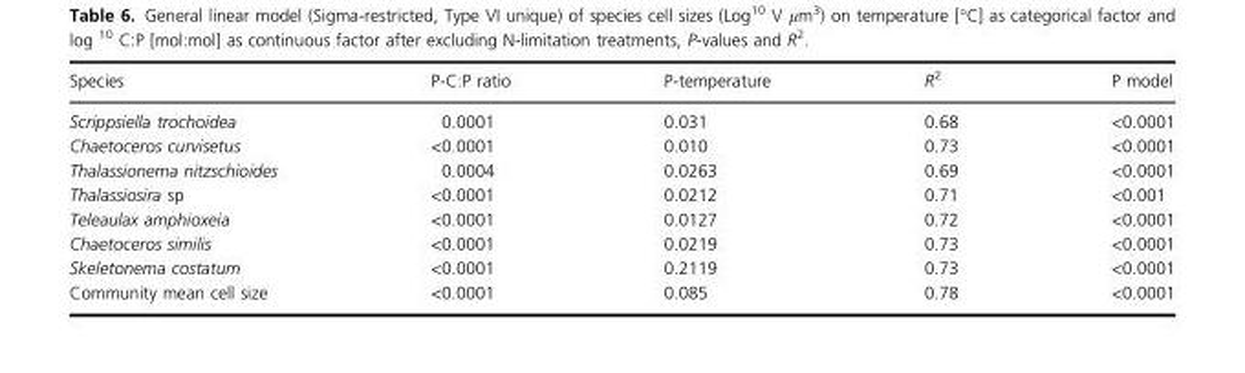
<table><thead><tr><td>Species</td><td>P-C:P ratio</td><td>P-temperature</td><td>R<sup>2</sup></td><td>P model</td></tr></thead><tbody><tr><td>Scrippsiella trochoidea</td><td>0.0001</td><td>0.031</td><td>0.68</td><td>&lt;0.0001</td></tr><tr><td>Chaetoceros curvisetus</td><td>&lt;0.0001</td><td>0.010</td><td>0.73</td><td>&lt;0.0001</td></tr><tr><td>Thalassionema nitzschioides</td><td>0.0004</td><td>0.0263</td><td>0.69</td><td>&lt;0.0001</td></tr><tr><td>Thalassiosira sp</td><td>&lt;0.0001</td><td>0.0212</td><td>0.71</td><td>&lt;0.001</td></tr><tr><td>Teleaulax amphioxeia</td><td>&lt;0.0001</td><td>0.0127</td><td>0.72</td><td>&lt;0.0001</td></tr><tr><td>Chaetoceros similis</td><td>&lt;0.0001</td><td>0.0219</td><td>0.73</td><td>&lt;0.0001</td></tr><tr><td>Skeletonema costatum</td><td>&lt;0.0001</td><td>0.2119</td><td>0.73</td><td>&lt;0.0001</td></tr><tr><td>Community mean cell size</td><td>&lt;0.0001</td><td>0.085</td><td>0.78</td><td>&lt;0.0001</td></tr></tbody></table>